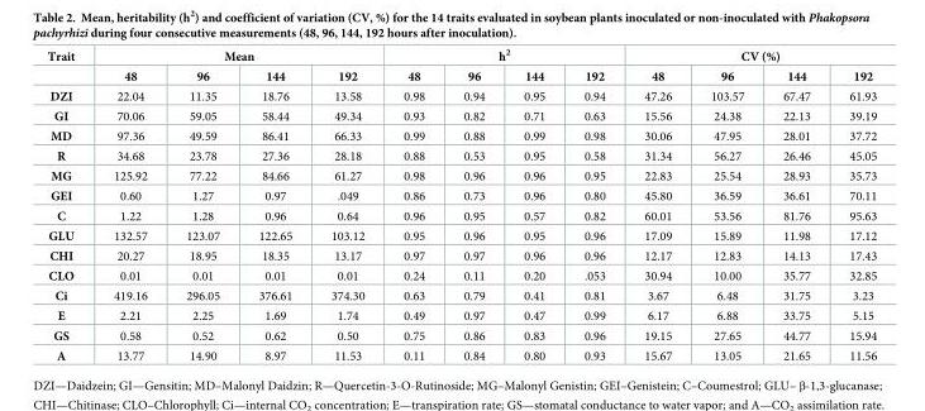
<table><thead><tr><td rowspan="2">Trait</td><td colspan="4">Mean</td><td colspan="4">h<sup>2</sup></td><td colspan="4">CV (%)</td></tr><tr><td>48</td><td>96</td><td>144</td><td>192</td><td>48</td><td>96</td><td>144</td><td>192</td><td>48</td><td>96</td><td>144</td><td>192</td></tr></thead><tbody><tr><td>DZI</td><td>22.04</td><td>11.35</td><td>18.76</td><td>13.58</td><td>0.98</td><td>0.94</td><td>0.95</td><td>0.94</td><td>47.26</td><td>103.57</td><td>67.47</td><td>61.93</td></tr><tr><td>GI</td><td>70.06</td><td>59.05</td><td>58.44</td><td>49.34</td><td>0.93</td><td>0.82</td><td>0.71</td><td>0.63</td><td>15.56</td><td>24.38</td><td>22.13</td><td>39.19</td></tr><tr><td>MD</td><td>97.36</td><td>49.59</td><td>86.41</td><td>66.33</td><td>0.99</td><td>0.88</td><td>0.99</td><td>0.98</td><td>30.06</td><td>47.95</td><td>28.01</td><td>37.72</td></tr><tr><td>R</td><td>34.68</td><td>23.78</td><td>27.36</td><td>28.18</td><td>0.88</td><td>0.53</td><td>0.95</td><td>0.58</td><td>31.34</td><td>56.27</td><td>26.46</td><td>45.05</td></tr><tr><td>MG</td><td>125.92</td><td>77.22</td><td>84.66</td><td>61.27</td><td>0.98</td><td>0.96</td><td>0.96</td><td>0.95</td><td>22.83</td><td>25.54</td><td>28.93</td><td>35.73</td></tr><tr><td>GEI</td><td>0.60</td><td>1.27</td><td>0.97</td><td>.049</td><td>0.86</td><td>0.73</td><td>0.96</td><td>0.80</td><td>45.80</td><td>36.59</td><td>36.61</td><td>70.11</td></tr><tr><td>C</td><td>1.22</td><td>1.28</td><td>0.96</td><td>0.64</td><td>0.96</td><td>0.95</td><td>0.57</td><td>0.82</td><td>60.01</td><td>53.56</td><td>81.76</td><td>95.63</td></tr><tr><td>GLU</td><td>132.57</td><td>123.07</td><td>122.65</td><td>103.12</td><td>0.95</td><td>0.96</td><td>0.95</td><td>0.96</td><td>17.09</td><td>15.89</td><td>11.98</td><td>17.12</td></tr><tr><td>CHI</td><td>20.27</td><td>18.95</td><td>18.35</td><td>13.17</td><td>0.97</td><td>0.97</td><td>0.96</td><td>0.96</td><td>12.17</td><td>12.83</td><td>14.13</td><td>17.43</td></tr><tr><td>CLO</td><td>0.01</td><td>0.01</td><td>0.01</td><td>0.01</td><td>0.24</td><td>0.11</td><td>0.20</td><td>.053</td><td>30.94</td><td>10.00</td><td>35.77</td><td>32.85</td></tr><tr><td>Ci</td><td>419.16</td><td>296.05</td><td>376.61</td><td>374.30</td><td>0.63</td><td>0.79</td><td>0.41</td><td>0.81</td><td>3.67</td><td>6.48</td><td>31.75</td><td>3.23</td></tr><tr><td>E</td><td>2.21</td><td>2.25</td><td>1.69</td><td>1.74</td><td>0.49</td><td>0.97</td><td>0.47</td><td>0.99</td><td>6.17</td><td>6.88</td><td>33.75</td><td>5.15</td></tr><tr><td>GS</td><td>0.58</td><td>0.52</td><td>0.62</td><td>0.50</td><td>0.75</td><td>0.86</td><td>0.83</td><td>0.96</td><td>19.15</td><td>27.65</td><td>44.77</td><td>15.94</td></tr><tr><td>A</td><td>13.77</td><td>14.90</td><td>8.97</td><td>11.53</td><td>0.11</td><td>0.84</td><td>0.80</td><td>0.93</td><td>15.67</td><td>13.05</td><td>21.65</td><td>11.56</td></tr></tbody></table>